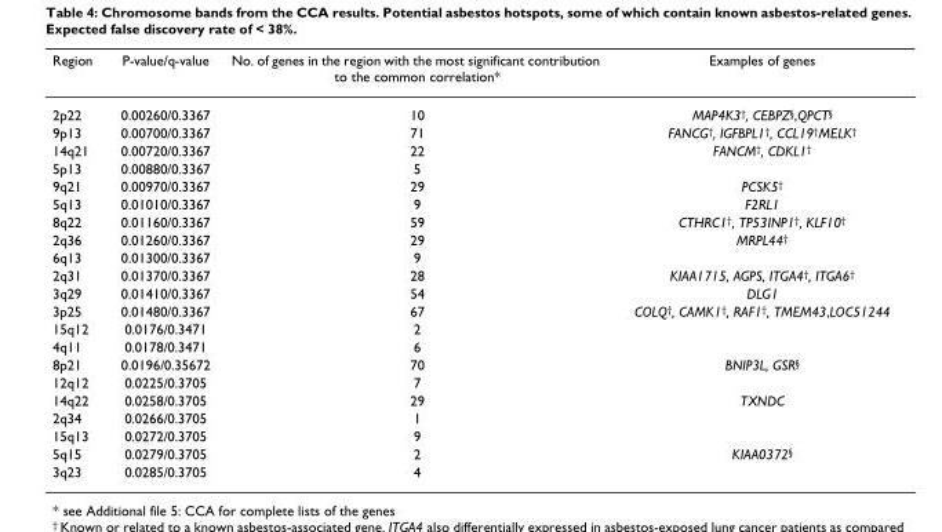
<table><thead><tr><td>Region</td><td>P-value/q-value</td><td>No. of genes in the region with the most significant contribution to the common correlation*</td><td>Examples of genes</td></tr></thead><tbody><tr><td>2p22</td><td>0.00260/0.3367</td><td>10</td><td>MAP4K3†, CEBPZ§,QPCT§</td></tr><tr><td>9p13</td><td>0.00700/0.3367</td><td>71</td><td>FANCG†, IGFBPL1†, CCL19†MELK†</td></tr><tr><td>14q21</td><td>0.00720/0.3367</td><td>22</td><td>FANCM†, CDKL1†</td></tr><tr><td>5p13</td><td>0.00880/0.3367</td><td>5</td><td></td></tr><tr><td>9q21</td><td>0.00970/0.3367</td><td>29</td><td>PCSK5†</td></tr><tr><td>5q13</td><td>0.01010/0.3367</td><td>9</td><td>F2RL1</td></tr><tr><td>8q22</td><td>0.01160/0.3367</td><td>59</td><td>CTHRC1†, TP53INP1†, KLF10†</td></tr><tr><td>2q36</td><td>0.01260/0.3367</td><td>29</td><td>MRPL44†</td></tr><tr><td>6q13</td><td>0.01300/0.3367</td><td>9</td><td></td></tr><tr><td>2q31</td><td>0.01370/0.3367</td><td>28</td><td>KIAA1715, AGPS, ITGA4†, ITGA6†</td></tr><tr><td>3q29</td><td>0.01410/0.3367</td><td>54</td><td>DLG1</td></tr><tr><td>3p25</td><td>0.01480/0.3367</td><td>67</td><td>COLQ†, CAMK1†, RAF1†, TMEM43,LOC51244</td></tr><tr><td>15q12</td><td>0.0176/0.3471</td><td>2</td><td></td></tr><tr><td>4q11</td><td>0.0178/0.3471</td><td>6</td><td></td></tr><tr><td>8p21</td><td>0.0196/0.35672</td><td>70</td><td>BNIP3L, GSR§</td></tr><tr><td>12q12</td><td>0.0225/0.3705</td><td>7</td><td></td></tr><tr><td>14q22</td><td>0.0258/0.3705</td><td>29</td><td>TXNDC</td></tr><tr><td>2q34</td><td>0.0266/0.3705</td><td>1</td><td></td></tr><tr><td>15q13</td><td>0.0272/0.3705</td><td>9</td><td></td></tr><tr><td>5q15</td><td>0.0279/0.3705</td><td>2</td><td>KIAA0372§</td></tr><tr><td>3q23</td><td>0.0285/0.3705</td><td>4</td><td></td></tr></tbody></table>